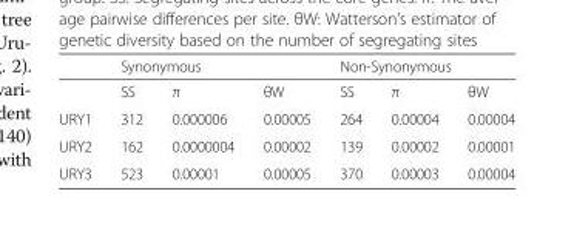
<table><thead><tr><td rowspan="2"></td><td colspan="3">Synonymous</td><td colspan="3">Non-Synonymous</td></tr><tr><td>SS</td><td>π</td><td>θW</td><td>SS</td><td>π</td><td>θW</td></tr></thead><tbody><tr><td>URY1</td><td>312</td><td>0.000006</td><td>0.00005</td><td>264</td><td>0.00004</td><td>0.00004</td></tr><tr><td>URY2</td><td>162</td><td>0.0000004</td><td>0.00002</td><td>139</td><td>0.00002</td><td>0.00001</td></tr><tr><td>URY3</td><td>523</td><td>0.00001</td><td>0.00005</td><td>370</td><td>0.00003</td><td>0.00004</td></tr></tbody></table>